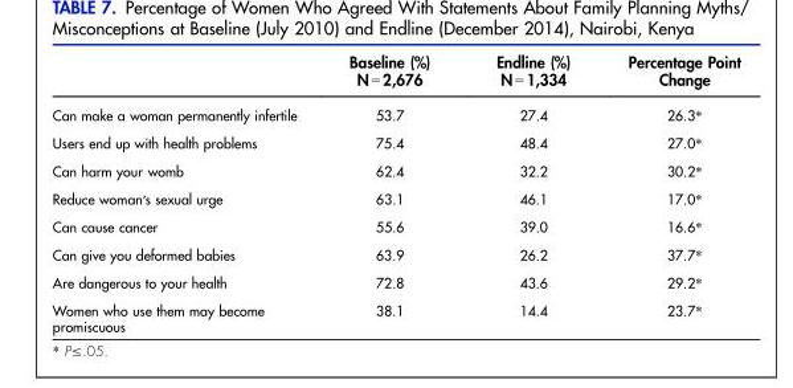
<table><thead><tr><td></td><td>Baseline (%) N = 2,676</td><td>Endline (%) N = 1,334</td><td>Percentage Point Change</td></tr></thead><tbody><tr><td>Can make a woman permanently infertile</td><td>53.7</td><td>27.4</td><td>26.3*</td></tr><tr><td>Users end up with health problems</td><td>75.4</td><td>48.4</td><td>27.0*</td></tr><tr><td>Can harm your womb</td><td>62.4</td><td>32.2</td><td>30.2*</td></tr><tr><td>Reduce woman’s sexual urge</td><td>63.1</td><td>46.1</td><td>17.0*</td></tr><tr><td>Can cause cancer</td><td>55.6</td><td>39.0</td><td>16.6*</td></tr><tr><td>Can give you deformed babies</td><td>63.9</td><td>26.2</td><td>37.7*</td></tr><tr><td>Are dangerous to your health</td><td>72.8</td><td>43.6</td><td>29.2*</td></tr><tr><td>Women who use them may become promiscuous</td><td>38.1</td><td>14.4</td><td>23.7*</td></tr></tbody></table>